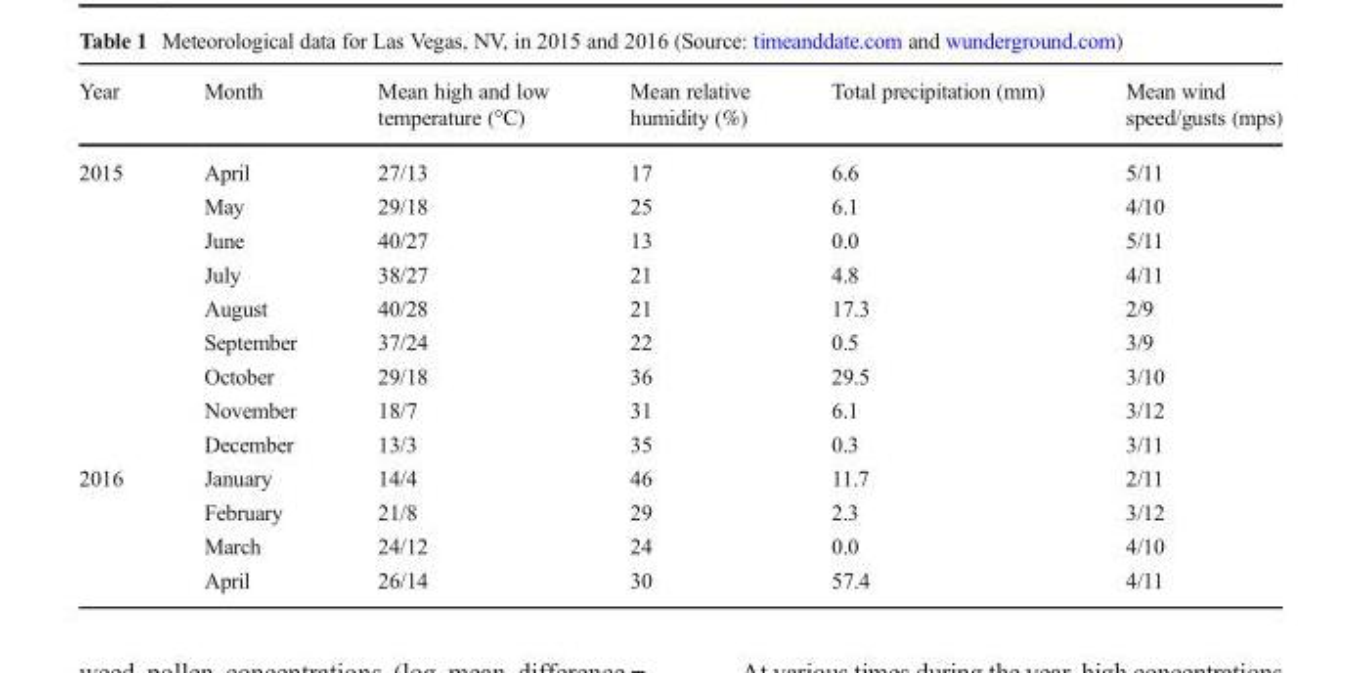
<table><thead><tr><td>Year</td><td>Month</td><td>Mean high and low temperature (°C)</td><td>Mean relative humidity (%)</td><td>Total precipitation (mm)</td><td>Mean wind speed/gusts (mps)</td></tr></thead><tbody><tr><td rowspan="9">2015</td><td>April</td><td>27/13</td><td>17</td><td>6.6</td><td>5/11</td></tr><tr><td>May</td><td>29/18</td><td>25</td><td>6.1</td><td>4/10</td></tr><tr><td>June</td><td>40/27</td><td>13</td><td>0.0</td><td>5/11</td></tr><tr><td>July</td><td>38/27</td><td>21</td><td>4.8</td><td>4/11</td></tr><tr><td>August</td><td>40/28</td><td>21</td><td>17.3</td><td>2/9</td></tr><tr><td>September</td><td>37/24</td><td>22</td><td>0.5</td><td>3/9</td></tr><tr><td>October</td><td>29/18</td><td>36</td><td>29.5</td><td>3/10</td></tr><tr><td>November</td><td>18/7</td><td>31</td><td>6.1</td><td>3/12</td></tr><tr><td>December</td><td>13/3</td><td>35</td><td>0.3</td><td>3/11</td></tr><tr><td rowspan="4">2016</td><td>January</td><td>14/4</td><td>46</td><td>11.7</td><td>2/11</td></tr><tr><td>February</td><td>21/8</td><td>29</td><td>2.3</td><td>3/12</td></tr><tr><td>March</td><td>24/12</td><td>24</td><td>0.0</td><td>4/10</td></tr><tr><td>April</td><td>26/14</td><td>30</td><td>57.4</td><td>4/11</td></tr></tbody></table>